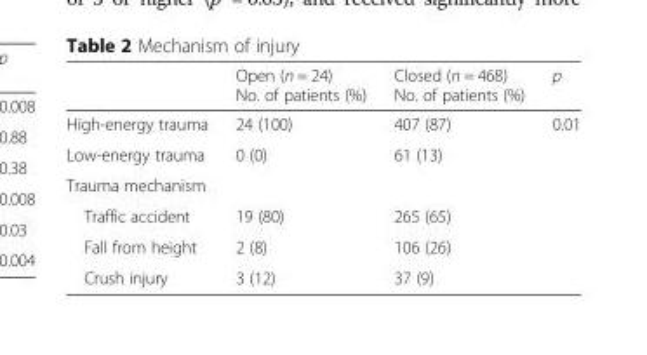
<table><thead><tr><td></td><td>Open (n = 24) No. of patients (%)</td><td>Closed (n = 468) No. of patients (%)</td><td>p</td></tr></thead><tbody><tr><td>High-energy trauma</td><td>24 (100)</td><td>407 (87)</td><td>0.01</td></tr><tr><td>Low-energy trauma</td><td>0 (0)</td><td>61 (13)</td><td></td></tr><tr><td colspan="4">Trauma mechanism</td></tr><tr><td>Traffic accident</td><td>19 (80)</td><td>265 (65)</td><td></td></tr><tr><td>Fall from height</td><td>2 (8)</td><td>106 (26)</td><td></td></tr><tr><td>Crush injury</td><td>3 (12)</td><td>37 (9)</td><td></td></tr></tbody></table>